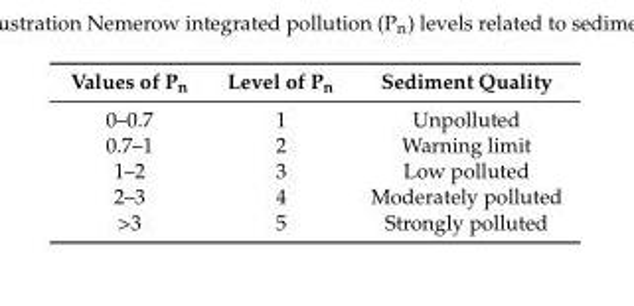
<table><thead><tr><td>Values of P<sub>n</sub></td><td>Level of P<sub>n</sub></td><td>Sediment Quality</td></tr></thead><tbody><tr><td>0–0.7</td><td>1</td><td>Unpolluted</td></tr><tr><td>0.7–1</td><td>2</td><td>Warning limit</td></tr><tr><td>1–2</td><td>3</td><td>Low polluted</td></tr><tr><td>2–3</td><td>4</td><td>Moderately polluted</td></tr><tr><td>&gt;3</td><td>5</td><td>Strongly polluted</td></tr></tbody></table>